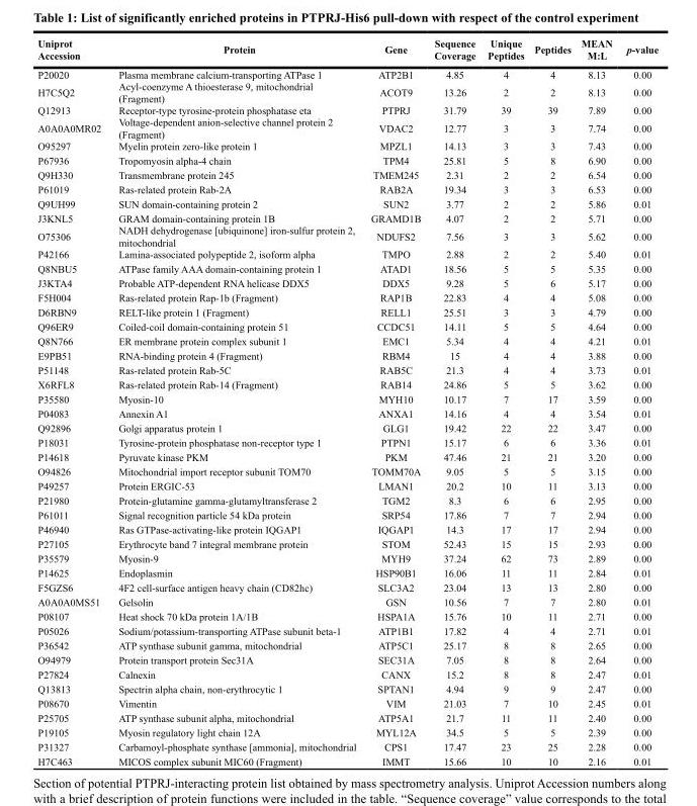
<table><thead><tr><td>Uniprot Accession</td><td>Protein</td><td>Gene</td><td>Sequence Coverage</td><td>Unique Peptides</td><td>Peptides</td><td>MEAN M:L</td><td>p-value</td></tr></thead><tbody><tr><td>P20020</td><td>Plasma membrane calcium-transporting ATPase 1</td><td>ATP2B1</td><td>4.85</td><td>4</td><td>4</td><td>8.13</td><td>0.00</td></tr><tr><td>H7C5Q2</td><td>Acyl-coenzyme A thioesterase 9, mitochondrial (Fragment)</td><td>ACOT9</td><td>13.26</td><td>2</td><td>2</td><td>8.13</td><td>0.00</td></tr><tr><td>Q12913</td><td>Receptor-type tyrosine-protein phosphatase eta</td><td>PTPRJ</td><td>31.79</td><td>39</td><td>39</td><td>7.89</td><td>0.00</td></tr><tr><td>A0A0A0MR02</td><td>Voltage-dependent anion-selective channel protein 2 (Fragment)</td><td>VDAC2</td><td>12.77</td><td>3</td><td>3</td><td>7.74</td><td>0.00</td></tr><tr><td>O95297</td><td>Myelin protein zero-like protein 1</td><td>MPZL1</td><td>14.13</td><td>3</td><td>3</td><td>7.43</td><td>0.00</td></tr><tr><td>P67936</td><td>Tropomyosin alpha-4 chain</td><td>TPM4</td><td>25.81</td><td>5</td><td>8</td><td>6.90</td><td>0.00</td></tr><tr><td>Q9H330</td><td>Transmembrane protein 245</td><td>TMEM245</td><td>2.31</td><td>2</td><td>2</td><td>6.54</td><td>0.00</td></tr><tr><td>P61019</td><td>Ras-related protein Rab-2A</td><td>RAB2A</td><td>19.34</td><td>3</td><td>3</td><td>6.53</td><td>0.00</td></tr><tr><td>Q9UH99</td><td>SUN domain-containing protein 2</td><td>SUN2</td><td>3.77</td><td>2</td><td>2</td><td>5.86</td><td>0.01</td></tr><tr><td>J3KNL5</td><td>GRAM domain-containing protein 1B</td><td>GRAMD1B</td><td>4.07</td><td>2</td><td>2</td><td>5.71</td><td>0.00</td></tr><tr><td>O75306</td><td>NADH dehydrogenase [ubiquinone] iron-sulfur protein 2, mitochondrial</td><td>NDUFS2</td><td>7.56</td><td>3</td><td>3</td><td>5.62</td><td>0.00</td></tr><tr><td>P42166</td><td>Lamina-associated polypeptide 2, isoform alpha</td><td>TMPO</td><td>2.88</td><td>2</td><td>2</td><td>5.40</td><td>0.01</td></tr><tr><td>Q8NBU5</td><td>ATPase family AAA domain-containing protein 1</td><td>ATAD1</td><td>18.56</td><td>5</td><td>5</td><td>5.35</td><td>0.00</td></tr><tr><td>J3KTA4</td><td>Probable ATP-dependent RNA helicase DDX5</td><td>DDX5</td><td>9.28</td><td>5</td><td>6</td><td>5.17</td><td>0.00</td></tr><tr><td>F5H004</td><td>Ras-related protein Rap-1b (Fragment)</td><td>RAP1B</td><td>22.83</td><td>4</td><td>4</td><td>5.08</td><td>0.00</td></tr><tr><td>D6RBN9</td><td>RELT-like protein 1 (Fragment)</td><td>RELL1</td><td>25.51</td><td>3</td><td>3</td><td>4.79</td><td>0.00</td></tr><tr><td>Q96ER9</td><td>Coiled-coil domain-containing protein 51</td><td>CCDC51</td><td>14.11</td><td>5</td><td>5</td><td>4.64</td><td>0.00</td></tr><tr><td>Q8N766</td><td>ER membrane protein complex subunit 1</td><td>EMC1</td><td>5.34</td><td>4</td><td>4</td><td>4.21</td><td>0.01</td></tr><tr><td>E9PB51</td><td>RNA-binding protein 4 (Fragment)</td><td>RBM4</td><td>15</td><td>4</td><td>4</td><td>3.88</td><td>0.00</td></tr><tr><td>P51148</td><td>Ras-related protein Rab-5C</td><td>RAB5C</td><td>21.3</td><td>4</td><td>4</td><td>3.73</td><td>0.01</td></tr><tr><td>X6RFL8</td><td>Ras-related protein Rab-14 (Fragment)</td><td>RAB14</td><td>24.86</td><td>5</td><td>5</td><td>3.62</td><td>0.00</td></tr><tr><td>P35580</td><td>Myosin-10</td><td>MYH10</td><td>10.17</td><td>7</td><td>17</td><td>3.59</td><td>0.00</td></tr><tr><td>P04083</td><td>Annexin A1</td><td>ANXA1</td><td>14.16</td><td>4</td><td>4</td><td>3.54</td><td>0.01</td></tr><tr><td>Q92896</td><td>Golgi apparatus protein 1</td><td>GLG1</td><td>19.42</td><td>22</td><td>22</td><td>3.47</td><td>0.00</td></tr><tr><td>P18031</td><td>Tyrosine-protein phosphatase non-receptor type 1</td><td>PTPN1</td><td>15.17</td><td>6</td><td>6</td><td>3.36</td><td>0.01</td></tr><tr><td>P14618</td><td>Pyruvate kinase PKM</td><td>PKM</td><td>47.46</td><td>21</td><td>21</td><td>3.20</td><td>0.00</td></tr><tr><td>O94826</td><td>Mitochondrial import receptor subunit TOM70</td><td>TOMM70A</td><td>9.05</td><td>5</td><td>5</td><td>3.15</td><td>0.00</td></tr><tr><td>P49257</td><td>Protein ERGIC-53</td><td>LMAN1</td><td>20.2</td><td>10</td><td>11</td><td>3.13</td><td>0.00</td></tr><tr><td>P21980</td><td>Protein-glutamine gamma-glutamyltransferase 2</td><td>TGM2</td><td>8.3</td><td>6</td><td>6</td><td>2.95</td><td>0.00</td></tr><tr><td>P61011</td><td>Signal recognition particle 54 kDa protein</td><td>SRP54</td><td>17.86</td><td>7</td><td>7</td><td>2.94</td><td>0.00</td></tr><tr><td>P46940</td><td>Ras GTPase-activating-like protein IQGAP1</td><td>IQGAP1</td><td>14.3</td><td>17</td><td>17</td><td>2.94</td><td>0.00</td></tr><tr><td>P27105</td><td>Erythrocyte band 7 integral membrane protein</td><td>STOM</td><td>52.43</td><td>15</td><td>15</td><td>2.93</td><td>0.00</td></tr><tr><td>P35579</td><td>Myosin-9</td><td>MYH9</td><td>37.24</td><td>62</td><td>73</td><td>2.89</td><td>0.00</td></tr><tr><td>P14625</td><td>Endoplasmin</td><td>HSP90B1</td><td>16.06</td><td>11</td><td>11</td><td>2.84</td><td>0.01</td></tr><tr><td>F5GZS6</td><td>4F2 cell-surface antigen heavy chain (CD82hc)</td><td>SLC3A2</td><td>23.04</td><td>13</td><td>13</td><td>2.80</td><td>0.00</td></tr><tr><td>A0A0A0MS51</td><td>Gelsolin</td><td>GSN</td><td>10.56</td><td>7</td><td>7</td><td>2.80</td><td>0.01</td></tr><tr><td>P08107</td><td>Heat shock 70 kDa protein 1A/1B</td><td>HSPA1A</td><td>15.76</td><td>10</td><td>11</td><td>2.71</td><td>0.00</td></tr><tr><td>P05026</td><td>Sodium/potassium-transporting ATPase subunit beta-1</td><td>ATP1B1</td><td>17.82</td><td>4</td><td>4</td><td>2.71</td><td>0.01</td></tr><tr><td>P36542</td><td>ATP synthase subunit gamma, mitochondrial</td><td>ATP5C1</td><td>25.17</td><td>8</td><td>8</td><td>2.65</td><td>0.00</td></tr><tr><td>O94979</td><td>Protein transport protein Sec31A</td><td>SEC31A</td><td>7.05</td><td>8</td><td>8</td><td>2.64</td><td>0.00</td></tr><tr><td>P27824</td><td>Calnexin</td><td>CANX</td><td>15.2</td><td>8</td><td>8</td><td>2.47</td><td>0.01</td></tr><tr><td>Q13813</td><td>Spectrin alpha chain, non-erythrocytic 1</td><td>SPTAN1</td><td>4.94</td><td>9</td><td>9</td><td>2.47</td><td>0.00</td></tr><tr><td>P08670</td><td>Vimentin</td><td>VIM</td><td>21.03</td><td>7</td><td>10</td><td>2.45</td><td>0.01</td></tr><tr><td>P25705</td><td>ATP synthase subunit alpha, mitochondrial</td><td>ATP5A1</td><td>21.7</td><td>11</td><td>11</td><td>2.40</td><td>0.00</td></tr><tr><td>P19105</td><td>Myosin regulatory light chain 12A</td><td>MYL12A</td><td>34.5</td><td>5</td><td>5</td><td>2.39</td><td>0.00</td></tr><tr><td>P31327</td><td>Carbamoyl-phosphate synthase [ammonia], mitochondrial</td><td>CPS1</td><td>17.47</td><td>23</td><td>25</td><td>2.28</td><td>0.00</td></tr><tr><td>H7C463</td><td>MICOS complex subunit MIC60 (Fragment)</td><td>IMMT</td><td>15.66</td><td>10</td><td>10</td><td>2.16</td><td>0.01</td></tr></tbody></table>